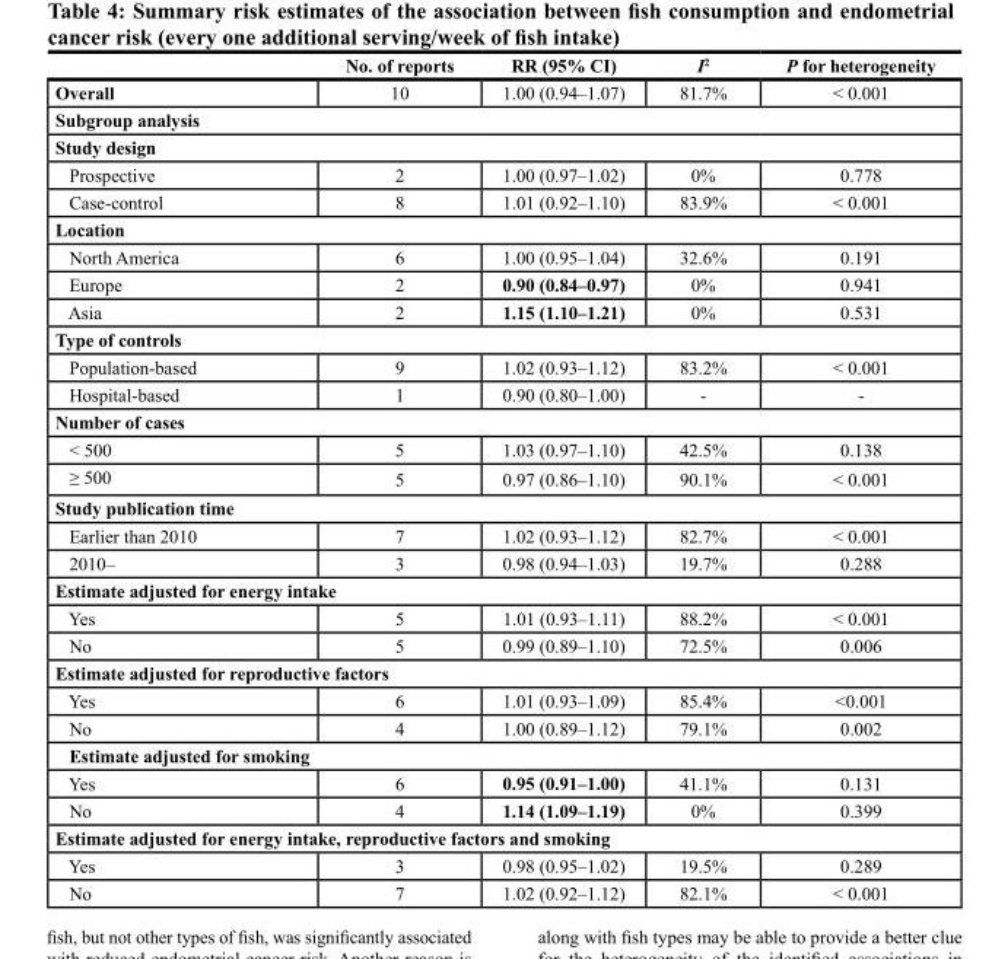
<table><thead><tr><td></td><td>No. of reports</td><td>RR (95% CI)</td><td>I<sup>2</sup></td><td>P for heterogeneity</td></tr></thead><tbody><tr><td>Overall</td><td>10</td><td>1.00 (0.94–1.07)</td><td>81.7%</td><td>&lt; 0.001</td></tr><tr><td colspan="5">Subgroup analysis</td></tr><tr><td colspan="5">Study design</td></tr><tr><td>Prospective</td><td>2</td><td>1.00 (0.97–1.02)</td><td>0%</td><td>0.778</td></tr><tr><td>Case-control</td><td>8</td><td>1.01 (0.92–1.10)</td><td>83.9%</td><td>&lt; 0.001</td></tr><tr><td colspan="5">Location</td></tr><tr><td>North America</td><td>6</td><td>1.00 (0.95–1.04)</td><td>32.6%</td><td>0.191</td></tr><tr><td>Europe</td><td>2</td><td>0.90 (0.84–0.97)</td><td>0%</td><td>0.941</td></tr><tr><td>Asia</td><td>2</td><td>1.15 (1.10–1.21)</td><td>0%</td><td>0.531</td></tr><tr><td colspan="5">Type of controls</td></tr><tr><td>Population-based</td><td>9</td><td>1.02 (0.93–1.12)</td><td>83.2%</td><td>&lt; 0.001</td></tr><tr><td>Hospital-based</td><td>1</td><td>0.90 (0.80–1.00)</td><td>-</td><td>-</td></tr><tr><td colspan="5">Number of cases</td></tr><tr><td>&lt; 500</td><td>5</td><td>1.03 (0.97–1.10)</td><td>42.5%</td><td>0.138</td></tr><tr><td>≥ 500</td><td>5</td><td>0.97 (0.86–1.10)</td><td>90.1%</td><td>&lt; 0.001</td></tr><tr><td colspan="5">Study publication time</td></tr><tr><td>Earlier than 2010</td><td>7</td><td>1.02 (0.93–1.12)</td><td>82.7%</td><td>&lt; 0.001</td></tr><tr><td>2010–</td><td>3</td><td>0.98 (0.94–1.03)</td><td>19.7%</td><td>0.288</td></tr><tr><td colspan="5">Estimate adjusted for energy intake</td></tr><tr><td>Yes</td><td>5</td><td>1.01 (0.93–1.11)</td><td>88.2%</td><td>&lt; 0.001</td></tr><tr><td>No</td><td>5</td><td>0.99 (0.89–1.10)</td><td>72.5%</td><td>0.006</td></tr><tr><td colspan="5">Estimate adjusted for reproductive factors</td></tr><tr><td>Yes</td><td>6</td><td>1.01 (0.93–1.09)</td><td>85.4%</td><td>&lt;0.001</td></tr><tr><td>No</td><td>4</td><td>1.00 (0.89–1.12)</td><td>79.1%</td><td>0.002</td></tr><tr><td colspan="5">Estimate adjusted for smoking</td></tr><tr><td>Yes</td><td>6</td><td>0.95 (0.91–1.00)</td><td>41.1%</td><td>0.131</td></tr><tr><td>No</td><td>4</td><td>1.14 (1.09–1.19)</td><td>0%</td><td>0.399</td></tr><tr><td colspan="5">Estimate adjusted for energy intake, reproductive factors and smoking</td></tr><tr><td>Yes</td><td>3</td><td>0.98 (0.95–1.02)</td><td>19.5%</td><td>0.289</td></tr><tr><td>No</td><td>7</td><td>1.02 (0.92–1.12)</td><td>82.1%</td><td>&lt; 0.001</td></tr></tbody></table>